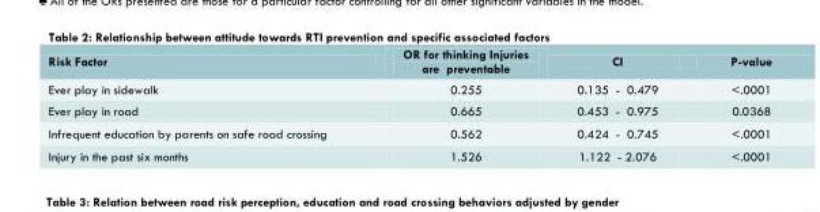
<table><thead><tr><td>Risk Factor</td><td>OR for thinking Injuries are preventable</td><td>CI</td><td>P-value</td></tr></thead><tbody><tr><td>Ever play in sidewalk</td><td>0.255</td><td>0.135 - 0.479</td><td>&lt;.0001</td></tr><tr><td>Ever play in road</td><td>0.665</td><td>0.453 - 0.975</td><td>0.0368</td></tr><tr><td>Infrequent education by parents on safe road crossing</td><td>0.562</td><td>0.424 - 0.745</td><td>&lt;.0001</td></tr><tr><td>Injury in the past six months</td><td>1.526</td><td>1.122 - 2.076</td><td>&lt;.0001</td></tr></tbody></table>